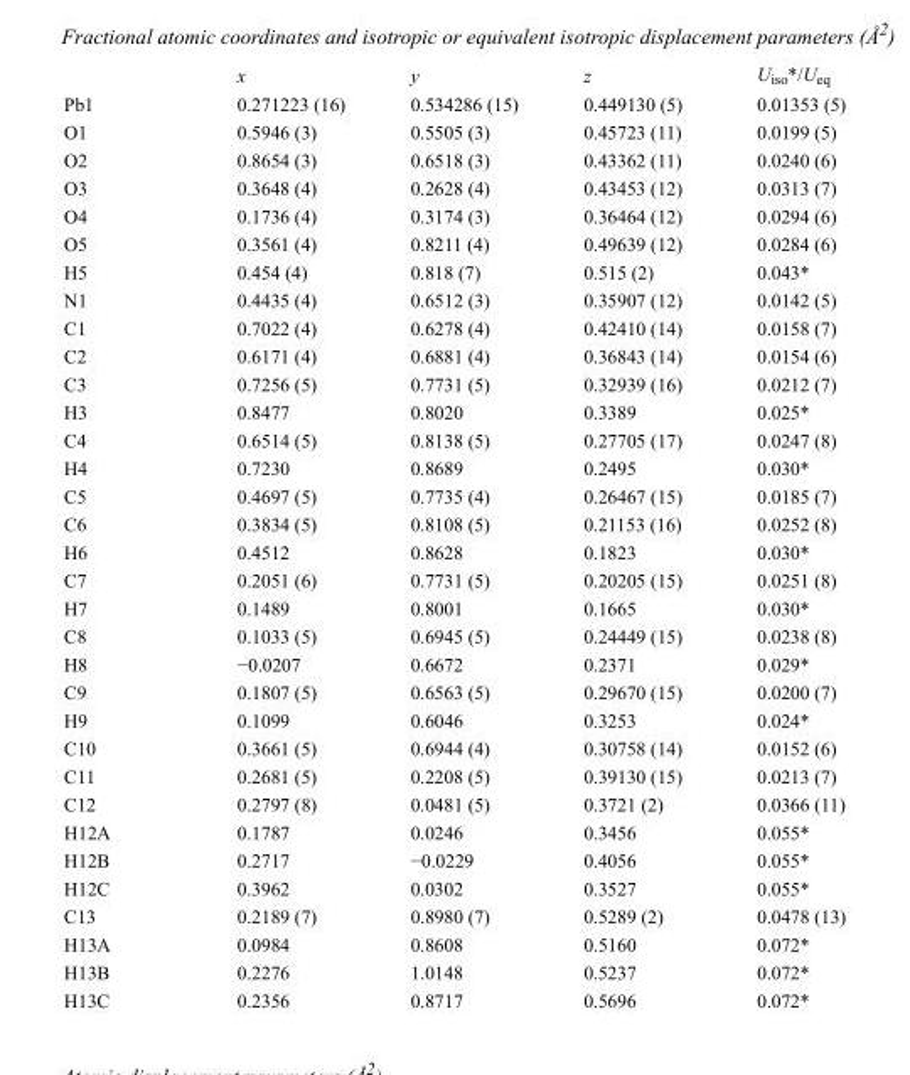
<table><thead><tr><td></td><td>x</td><td>y</td><td>z</td><td>U<sub>iso</sub>*/U<sub>eq</sub></td></tr></thead><tbody><tr><td>Pb1</td><td>0.271223 (16)</td><td>0.534286 (15)</td><td>0.449130 (5)</td><td>0.01353 (5)</td></tr><tr><td>O1</td><td>0.5946 (3)</td><td>0.5505 (3)</td><td>0.45723 (11)</td><td>0.0199 (5)</td></tr><tr><td>O2</td><td>0.8654 (3)</td><td>0.6518 (3)</td><td>0.43362 (11)</td><td>0.0240 (6)</td></tr><tr><td>O3</td><td>0.3648 (4)</td><td>0.2628 (4)</td><td>0.43453 (12)</td><td>0.0313 (7)</td></tr><tr><td>O4</td><td>0.1736 (4)</td><td>0.3174 (3)</td><td>0.36464 (12)</td><td>0.0294 (6)</td></tr><tr><td>O5</td><td>0.3561 (4)</td><td>0.8211 (4)</td><td>0.49639 (12)</td><td>0.0284 (6)</td></tr><tr><td>H5</td><td>0.454 (4)</td><td>0.818 (7)</td><td>0.515 (2)</td><td>0.043*</td></tr><tr><td>N1</td><td>0.4435 (4)</td><td>0.6512 (3)</td><td>0.35907 (12)</td><td>0.0142 (5)</td></tr><tr><td>C1</td><td>0.7022 (4)</td><td>0.6278 (4)</td><td>0.42410 (14)</td><td>0.0158 (7)</td></tr><tr><td>C2</td><td>0.6171 (4)</td><td>0.6881 (4)</td><td>0.36843 (14)</td><td>0.0154 (6)</td></tr><tr><td>C3</td><td>0.7256 (5)</td><td>0.7731 (5)</td><td>0.32939 (16)</td><td>0.0212 (7)</td></tr><tr><td>H3</td><td>0.8477</td><td>0.8020</td><td>0.3389</td><td>0.025*</td></tr><tr><td>C4</td><td>0.6514 (5)</td><td>0.8138 (5)</td><td>0.27705 (17)</td><td>0.0247 (8)</td></tr><tr><td>H4</td><td>0.7230</td><td>0.8689</td><td>0.2495</td><td>0.030*</td></tr><tr><td>C5</td><td>0.4697 (5)</td><td>0.7735 (4)</td><td>0.26467 (15)</td><td>0.0185 (7)</td></tr><tr><td>C6</td><td>0.3834 (5)</td><td>0.8108 (5)</td><td>0.21153 (16)</td><td>0.0252 (8)</td></tr><tr><td>H6</td><td>0.4512</td><td>0.8628</td><td>0.1823</td><td>0.030*</td></tr><tr><td>C7</td><td>0.2051 (6)</td><td>0.7731 (5)</td><td>0.20205 (15)</td><td>0.0251 (8)</td></tr><tr><td>H7</td><td>0.1489</td><td>0.8001</td><td>0.1665</td><td>0.030*</td></tr><tr><td>C8</td><td>0.1033 (5)</td><td>0.6945 (5)</td><td>0.24449 (15)</td><td>0.0238 (8)</td></tr><tr><td>H8</td><td>−0.0207</td><td>0.6672</td><td>0.2371</td><td>0.029*</td></tr><tr><td>C9</td><td>0.1807 (5)</td><td>0.6563 (5)</td><td>0.29670 (15)</td><td>0.0200 (7)</td></tr><tr><td>H9</td><td>0.1099</td><td>0.6046</td><td>0.3253</td><td>0.024*</td></tr><tr><td>C10</td><td>0.3661 (5)</td><td>0.6944 (4)</td><td>0.30758 (14)</td><td>0.0152 (6)</td></tr><tr><td>C11</td><td>0.2681 (5)</td><td>0.2208 (5)</td><td>0.39130 (15)</td><td>0.0213 (7)</td></tr><tr><td>C12</td><td>0.2797 (8)</td><td>0.0481 (5)</td><td>0.3721 (2)</td><td>0.0366 (11)</td></tr><tr><td>H12A</td><td>0.1787</td><td>0.0246</td><td>0.3456</td><td>0.055*</td></tr><tr><td>H12B</td><td>0.2717</td><td>−0.0229</td><td>0.4056</td><td>0.055*</td></tr><tr><td>H12C</td><td>0.3962</td><td>0.0302</td><td>0.3527</td><td>0.055*</td></tr><tr><td>C13</td><td>0.2189 (7)</td><td>0.8980 (7)</td><td>0.5289 (2)</td><td>0.0478 (13)</td></tr><tr><td>H13A</td><td>0.0984</td><td>0.8608</td><td>0.5160</td><td>0.072*</td></tr><tr><td>H13B</td><td>0.2276</td><td>1.0148</td><td>0.5237</td><td>0.072*</td></tr><tr><td>H13C</td><td>0.2356</td><td>0.8717</td><td>0.5696</td><td>0.072*</td></tr></tbody></table>